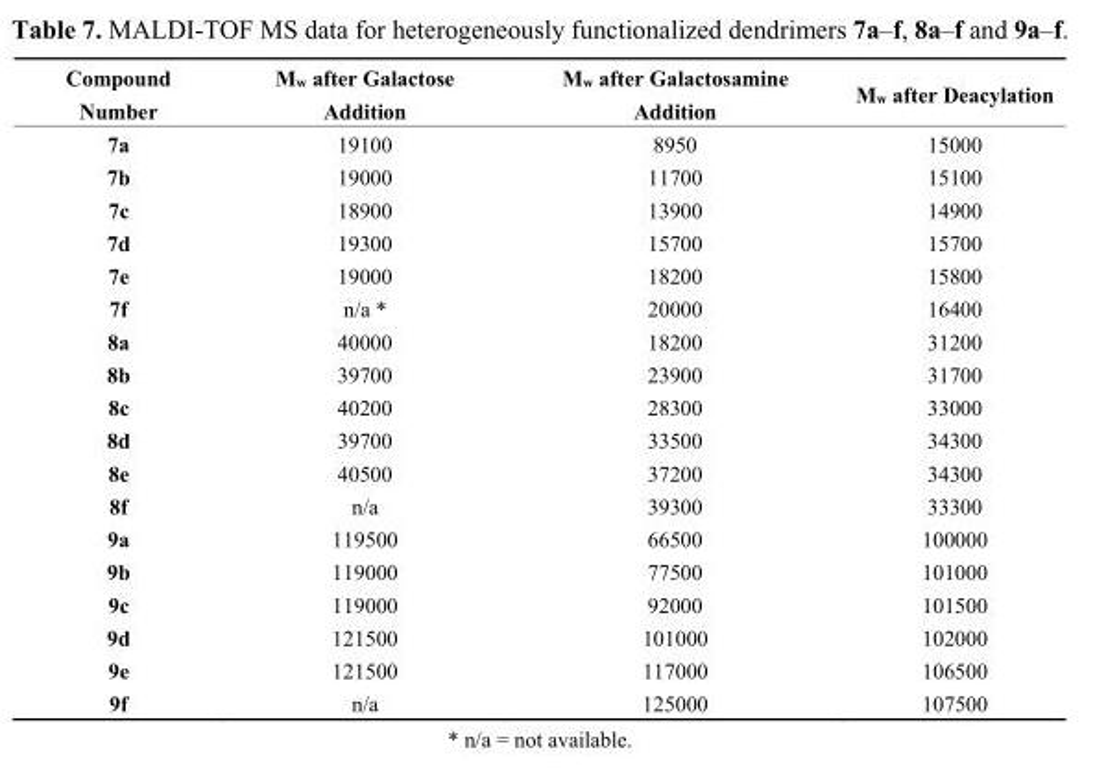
<table><thead><tr><td>Compound Number</td><td>M<sub>w</sub> after Galactose Addition</td><td>M<sub>w</sub> after Galactosamine Addition</td><td>M<sub>w</sub> after Deacylation</td></tr></thead><tbody><tr><td>7a</td><td>19100</td><td>8950</td><td>15000</td></tr><tr><td>7b</td><td>19000</td><td>11700</td><td>15100</td></tr><tr><td>7c</td><td>18900</td><td>13900</td><td>14900</td></tr><tr><td>7d</td><td>19300</td><td>15700</td><td>15700</td></tr><tr><td>7e</td><td>19000</td><td>18200</td><td>15800</td></tr><tr><td>7f</td><td>n/a *</td><td>20000</td><td>16400</td></tr><tr><td>8a</td><td>40000</td><td>18200</td><td>31200</td></tr><tr><td>8b</td><td>39700</td><td>23900</td><td>31700</td></tr><tr><td>8c</td><td>40200</td><td>28300</td><td>33000</td></tr><tr><td>8d</td><td>39700</td><td>33500</td><td>34300</td></tr><tr><td>8e</td><td>40500</td><td>37200</td><td>34300</td></tr><tr><td>8f</td><td>n/a</td><td>39300</td><td>33300</td></tr><tr><td>9a</td><td>119500</td><td>66500</td><td>100000</td></tr><tr><td>9b</td><td>119000</td><td>77500</td><td>101000</td></tr><tr><td>9c</td><td>119000</td><td>92000</td><td>101500</td></tr><tr><td>9d</td><td>121500</td><td>101000</td><td>102000</td></tr><tr><td>9e</td><td>121500</td><td>117000</td><td>106500</td></tr><tr><td>9f</td><td>n/a</td><td>125000</td><td>107500</td></tr></tbody></table>